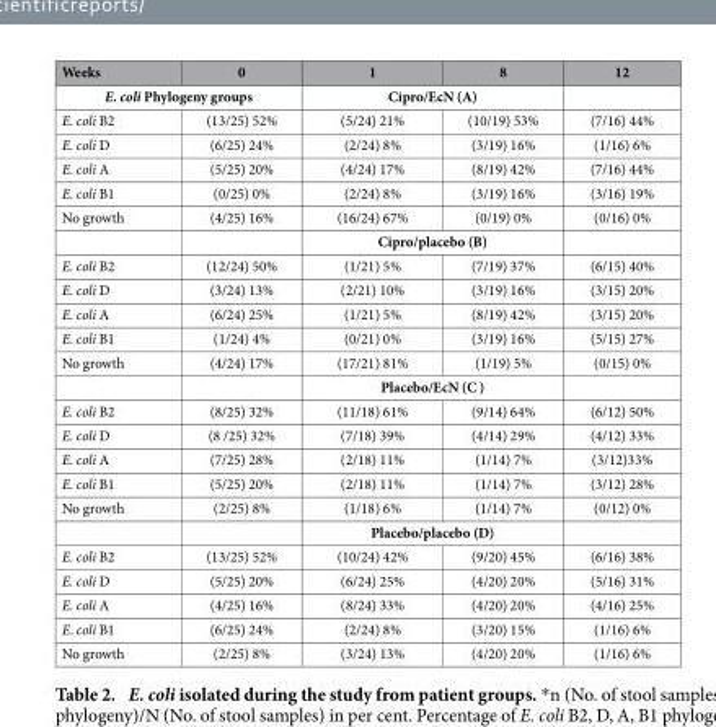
<table><thead><tr><td>Weeks</td><td>0</td><td>1</td><td>8</td><td>12</td></tr></thead><tbody><tr><td colspan="2">E. coli Phylogeny groups</td><td colspan="2">Cipro/EcN (A)</td><td></td></tr><tr><td>E. coli B2</td><td>(13/25) 52%</td><td>(5/24) 21%</td><td>(10/19) 53%</td><td>(7/16) 44%</td></tr><tr><td>E. coli D</td><td>(6/25) 24%</td><td>(2/24) 8%</td><td>(3/19) 16%</td><td>(1/16) 6%</td></tr><tr><td>E. coli A</td><td>(5/25) 20%</td><td>(4/24) 17%</td><td>(8/19) 42%</td><td>(7/16) 44%</td></tr><tr><td>E. coli B1</td><td>(0/25) 0%</td><td>(2/24) 8%</td><td>(3/19) 16%</td><td>(3/16) 19%</td></tr><tr><td rowspan="2">No growth</td><td>(4/25) 16%</td><td>(16/24) 67%</td><td>(0/19) 0%</td><td>(0/16) 0%</td></tr><tr><td></td><td colspan="2">Cipro/placebo (B)</td><td></td></tr><tr><td>E. coli B2</td><td>(12/24) 50%</td><td>(1/21) 5%</td><td>(7/19) 37%</td><td>(6/15) 40%</td></tr><tr><td>E. coli D</td><td>(3/24) 13%</td><td>(2/21) 10%</td><td>(3/19) 16%</td><td>(3/15) 20%</td></tr><tr><td>E. coli A</td><td>(6/24) 25%</td><td>(1/21) 5%</td><td>(8/19) 42%</td><td>(3/15) 20%</td></tr><tr><td>E. coli B1</td><td>(1/24) 4%</td><td>(0/21) 0%</td><td>(3/19) 16%</td><td>(5/15) 27%</td></tr><tr><td rowspan="2">No growth</td><td>(4/24) 17%</td><td>(17/21) 81%</td><td>(1/19) 5%</td><td>(0/15) 0%</td></tr><tr><td></td><td colspan="2">Placebo/EcN (C )</td><td></td></tr><tr><td>E. coli B2</td><td>(8/25) 32%</td><td>(11/18) 61%</td><td>(9/14) 64%</td><td>(6/12) 50%</td></tr><tr><td>E. coli D</td><td>(8 /25) 32%</td><td>(7/18) 39%</td><td>(4/14) 29%</td><td>(4/12) 33%</td></tr><tr><td>E. coli A</td><td>(7/25) 28%</td><td>(2/18) 11%</td><td>(1/14) 7%</td><td>(3/12)33%</td></tr><tr><td>E. coli B1</td><td>(5/25) 20%</td><td>(2/18) 11%</td><td>(1/14) 7%</td><td>(3/12) 28%</td></tr><tr><td rowspan="2">No growth</td><td>(2/25) 8%</td><td>(1/18) 6%</td><td>(1/14) 7%</td><td>(0/12) 0%</td></tr><tr><td></td><td colspan="2">Placebo/placebo (D)</td><td></td></tr><tr><td>E. coli B2</td><td>(13/25) 52%</td><td>(10/24) 42%</td><td>(9/20) 45%</td><td>(6/16) 38%</td></tr><tr><td>E. coli D</td><td>(5/25) 20%</td><td>(6/24) 25%</td><td>(4/20) 20%</td><td>(5/16) 31%</td></tr><tr><td>E. coli A</td><td>(4/25) 16%</td><td>(8/24) 33%</td><td>(4/20) 20%</td><td>(4/16) 25%</td></tr><tr><td>E. coli B1</td><td>(6/25) 24%</td><td>(2/24) 8%</td><td>(3/20) 15%</td><td>(1/16) 6%</td></tr><tr><td>No growth</td><td>(2/25) 8%</td><td>(3/24) 13%</td><td>(4/20) 20%</td><td>(1/16) 6%</td></tr></tbody></table>